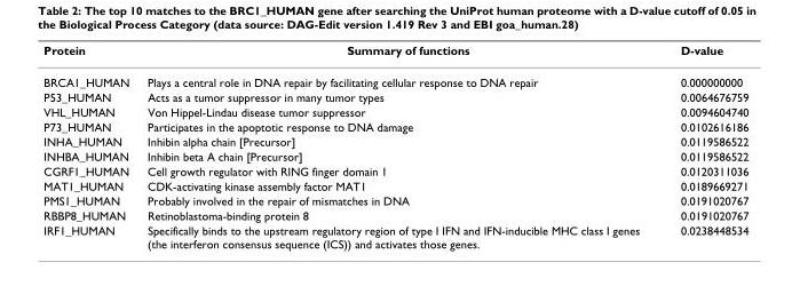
<table><thead><tr><td>Protein</td><td>Summary of functions</td><td>D-value</td></tr></thead><tbody><tr><td>BRCA1_HUMAN</td><td>Plays a central role in DNA repair by facilitating cellular response to DNA repair</td><td>0.000000000</td></tr><tr><td>P53_HUMAN</td><td>Acts as a tumor suppressor in many tumor types</td><td>0.0064676759</td></tr><tr><td>VHL_HUMAN</td><td>Von Hippel-Lindau disease tumor suppressor</td><td>0.0094604740</td></tr><tr><td>P73_HUMAN</td><td>Participates in the apoptotic response to DNA damage</td><td>0.0102616186</td></tr><tr><td>INHA_HUMAN</td><td>Inhibin alpha chain [Precursor]</td><td>0.0119586522</td></tr><tr><td>INHBA_HUMAN</td><td>Inhibin beta A chain [Precursor]</td><td>0.0119586522</td></tr><tr><td>CGRF1_HUMAN</td><td>Cell growth regulator with RING finger domain 1</td><td>0.0120311036</td></tr><tr><td>MAT1_HUMAN</td><td>CDK-activating kinase assembly factor MAT1</td><td>0.0189669271</td></tr><tr><td>PMS1_HUMAN</td><td>Probably involved in the repair of mismatches in DNA</td><td>0.0191020767</td></tr><tr><td>RBBP8_HUMAN</td><td>Retinoblastoma-binding protein 8</td><td>0.0191020767</td></tr><tr><td>IRF1_HUMAN</td><td>Specifically binds to the upstream regulatory region of type I IFN and IFN-inducible MHC class I genes (the interferon consensus sequence (ICS)) and activates those genes.</td><td>0.0238448534</td></tr></tbody></table>